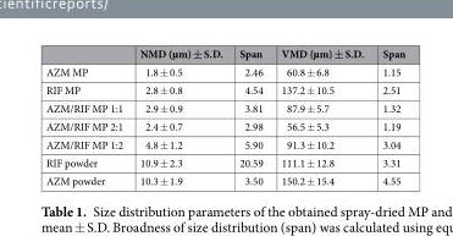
<table><thead><tr><td></td><td>NMD (µm) ± S.D.</td><td>Span</td><td>VMD (µm) ± S.D.</td><td>Span</td></tr></thead><tbody><tr><td>AZM MP</td><td>1.8 ± 0.5</td><td>2.46</td><td>60.8 ± 6.8</td><td>1.15</td></tr><tr><td>RIF MP</td><td>2.8 ± 0.8</td><td>4.54</td><td>137.2 ± 10.5</td><td>2.51</td></tr><tr><td>AZM/RIF MP 1:1</td><td>2.9 ± 0.9</td><td>3.81</td><td>87.9 ± 5.7</td><td>1.32</td></tr><tr><td>AZM/RIF MP 2:1</td><td>2.4 ± 0.7</td><td>2.98</td><td>56.5 ± 5.3</td><td>1.19</td></tr><tr><td>AZM/RIF MP 1:2</td><td>4.8 ± 1.2</td><td>5.90</td><td>91.3 ± 10.2</td><td>3.04</td></tr><tr><td>RIF powder</td><td>10.9 ± 2.3</td><td>20.59</td><td>111.1 ± 12.8</td><td>3.31</td></tr><tr><td>AZM powder</td><td>10.3 ± 1.9</td><td>3.50</td><td>150.2 ± 15.4</td><td>4.55</td></tr></tbody></table>